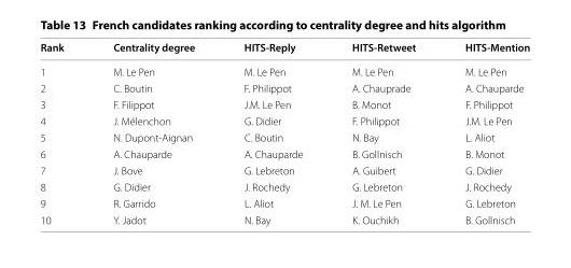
<table><thead><tr><td>Rank</td><td>Centrality degree</td><td>HITS-Reply</td><td>HITS-Retweet</td><td>HITS-Mention</td></tr></thead><tbody><tr><td>1</td><td>M. Le Pen</td><td>M. Le Pen</td><td>M. Le Pen</td><td>M. Le Pen</td></tr><tr><td>2</td><td>C. Boutin</td><td>F. Philippot</td><td>A. Chauprade</td><td>A. Chauparde</td></tr><tr><td>3</td><td>F. Filippot</td><td>J.M. Le Pen</td><td>B. Monot</td><td>F. Philippot</td></tr><tr><td>4</td><td>J. Mélenchon</td><td>G. Didier</td><td>F. Philippot</td><td>J.M. Le Pen</td></tr><tr><td>5</td><td>N. Dupont-Aignan</td><td>C. Boutin</td><td>N. Bay</td><td>L. Aliot</td></tr><tr><td>6</td><td>A. Chauparde</td><td>A. Chauparde</td><td>B. Gollnisch</td><td>B. Monot</td></tr><tr><td>7</td><td>J. Bove</td><td>G. Lebreton</td><td>A. Guibert</td><td>G. Didier</td></tr><tr><td>8</td><td>G. Didier</td><td>J. Rochedy</td><td>G. Lebreton</td><td>J. Rochedy</td></tr><tr><td>9</td><td>R. Garrido</td><td>L. Aliot</td><td>J. M. Le Pen</td><td>G. Lebreton</td></tr><tr><td>10</td><td>Y. Jadot</td><td>N. Bay</td><td>K. Ouchikh</td><td>B. Gollnisch</td></tr></tbody></table>